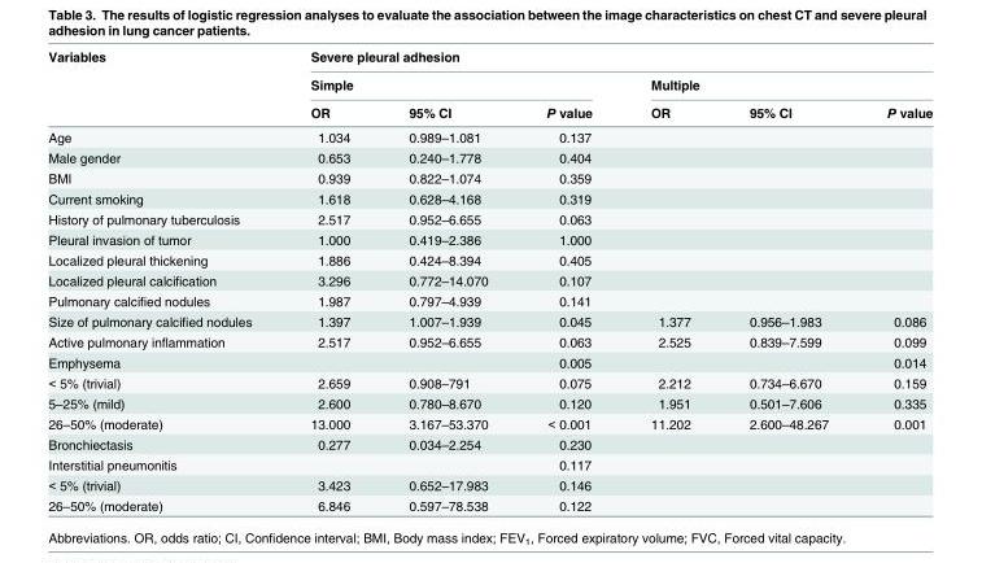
<table><thead><tr><td rowspan="3">Variables</td><td colspan="6">Severe pleural adhesion</td></tr><tr><td colspan="3">Simple</td><td colspan="3">Multiple</td></tr><tr><td>OR</td><td>95% CI</td><td>P value</td><td>OR</td><td>95% CI</td><td>P value</td></tr></thead><tbody><tr><td>Age</td><td>1.034</td><td>0.989–1.081</td><td>0.137</td><td></td><td></td><td></td></tr><tr><td>Male gender</td><td>0.653</td><td>0.240–1.778</td><td>0.404</td><td></td><td></td><td></td></tr><tr><td>BMI</td><td>0.939</td><td>0.822–1.074</td><td>0.359</td><td></td><td></td><td></td></tr><tr><td>Current smoking</td><td>1.618</td><td>0.628–4.168</td><td>0.319</td><td></td><td></td><td></td></tr><tr><td>History of pulmonary tuberculosis</td><td>2.517</td><td>0.952–6.655</td><td>0.063</td><td></td><td></td><td></td></tr><tr><td>Pleural invasion of tumor</td><td>1.000</td><td>0.419–2.386</td><td>1.000</td><td></td><td></td><td></td></tr><tr><td>Localized pleural thickening</td><td>1.886</td><td>0.424–8.394</td><td>0.405</td><td></td><td></td><td></td></tr><tr><td>Localized pleural calcification</td><td>3.296</td><td>0.772–14.070</td><td>0.107</td><td></td><td></td><td></td></tr><tr><td>Pulmonary calcified nodules</td><td>1.987</td><td>0.797–4.939</td><td>0.141</td><td></td><td></td><td></td></tr><tr><td>Size of pulmonary calcified nodules</td><td>1.397</td><td>1.007–1.939</td><td>0.045</td><td>1.377</td><td>0.956–1.983</td><td>0.086</td></tr><tr><td>Active pulmonary inflammation</td><td>2.517</td><td>0.952–6.655</td><td>0.063</td><td>2.525</td><td>0.839–7.599</td><td>0.099</td></tr><tr><td>Emphysema</td><td></td><td></td><td>0.005</td><td></td><td></td><td>0.014</td></tr><tr><td>&lt; 5% (trivial)</td><td>2.659</td><td>0.908–791</td><td>0.075</td><td>2.212</td><td>0.734–6.670</td><td>0.159</td></tr><tr><td>5–25% (mild)</td><td>2.600</td><td>0.780–8.670</td><td>0.120</td><td>1.951</td><td>0.501–7.606</td><td>0.335</td></tr><tr><td>26–50% (moderate)</td><td>13.000</td><td>3.167–53.370</td><td>&lt; 0.001</td><td>11.202</td><td>2.600–48.267</td><td>0.001</td></tr><tr><td>Bronchiectasis</td><td>0.277</td><td>0.034–2.254</td><td>0.230</td><td></td><td></td><td></td></tr><tr><td>Interstitial pneumonitis</td><td></td><td></td><td>0.117</td><td></td><td></td><td></td></tr><tr><td>&lt; 5% (trivial)</td><td>3.423</td><td>0.652–17.983</td><td>0.146</td><td></td><td></td><td></td></tr><tr><td>26–50% (moderate)</td><td>6.846</td><td>0.597–78.538</td><td>0.122</td><td></td><td></td><td></td></tr></tbody></table>